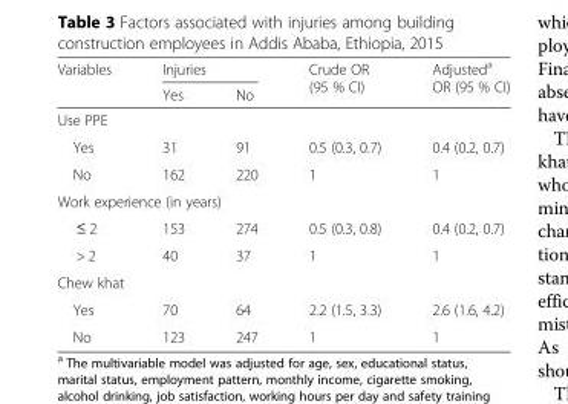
<table><thead><tr><td rowspan="2">Variables</td><td colspan="2">Injuries</td><td rowspan="2">Crude OR (95 % CI)</td><td rowspan="2">Adjusted<sup>a</sup> OR (95 % CI)</td></tr><tr><td>Yes</td><td>No</td></tr></thead><tbody><tr><td colspan="5">Use PPE</td></tr><tr><td>Yes</td><td>31</td><td>91</td><td>0.5 (0.3, 0.7)</td><td>0.4 (0.2, 0.7)</td></tr><tr><td>No</td><td>162</td><td>220</td><td>1</td><td>1</td></tr><tr><td colspan="5">Work experience (in years)</td></tr><tr><td>≤ 2</td><td>153</td><td>274</td><td>0.5 (0.3, 0.8)</td><td>0.4 (0.2, 0.7)</td></tr><tr><td>&gt; 2</td><td>40</td><td>37</td><td>1</td><td>1</td></tr><tr><td colspan="5">Chew khat</td></tr><tr><td>Yes</td><td>70</td><td>64</td><td>2.2 (1.5, 3.3)</td><td>2.6 (1.6, 4.2)</td></tr><tr><td>No</td><td>123</td><td>247</td><td>1</td><td>1</td></tr></tbody></table>